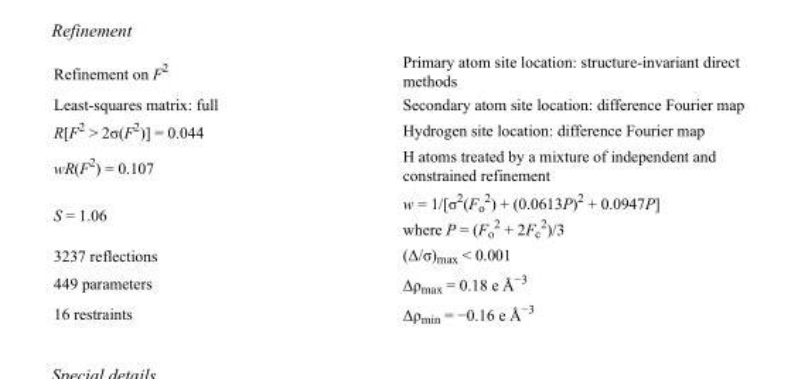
<table><tbody><tr><td>Refinement on F<sup>2</sup></td><td>Primary atom site location: structure-invariant direct methods</td></tr><tr><td>Least-squares matrix: full</td><td>Secondary atom site location: difference Fourier map</td></tr><tr><td>R[F<sup>2</sup> &gt; 2σ(F<sup>2</sup>)] = 0.044</td><td>Hydrogen site location: difference Fourier map</td></tr><tr><td>wR(F<sup>2</sup>) = 0.107</td><td>H atoms treated by a mixture of independent and constrained refinement</td></tr><tr><td>S = 1.06</td><td>w = 1/[σ<sup>2</sup>(F<sub>o</sub> <sup>2</sup>) + (0.0613P)<sup>2</sup> + 0.0947P] where P = (F<sub>o</sub> <sup>2</sup> + 2F<sub>c</sub> <sup>2</sup>)/3</td></tr><tr><td>3237 reflections</td><td>(Δ/σ)<sub>max</sub> &lt; 0.001</td></tr><tr><td>449 parameters</td><td>Δρ<sub>max</sub> = 0.18 e Å<sup>−3</sup></td></tr><tr><td>16 restraints</td><td>Δρ<sub>min</sub> = −0.16 e Å<sup>−3</sup></td></tr></tbody></table>